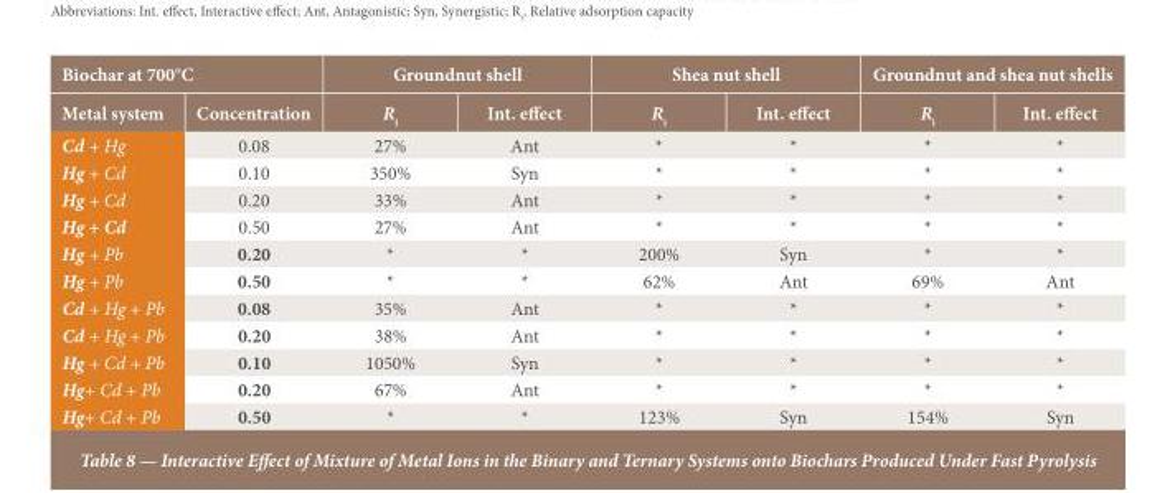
<table><thead><tr><td colspan="2">Biochar at 700°C</td><td colspan="2">Groundnut shell</td><td colspan="2">Shea nut shell</td><td colspan="2">Groundnut and shea nut shells</td></tr><tr><td>Metal system</td><td>Concentration</td><td>R<sub>i</sub></td><td>Int. effect</td><td>R<sub>i</sub></td><td>Int. effect</td><td>R<sub>i</sub></td><td>Int. effect</td></tr></thead><tbody><tr><td>Cd + Hg</td><td>0.08</td><td>27%</td><td>Ant</td><td>*</td><td>*</td><td>*</td><td>*</td></tr><tr><td>Hg + Cd</td><td>0.10</td><td>350%</td><td>Syn</td><td>*</td><td>*</td><td>*</td><td>*</td></tr><tr><td>Hg + Cd</td><td>0.20</td><td>33%</td><td>Ant</td><td>*</td><td>*</td><td>*</td><td>*</td></tr><tr><td>Hg + Cd</td><td>0.50</td><td>27%</td><td>Ant</td><td>*</td><td>*</td><td>*</td><td>*</td></tr><tr><td>Hg + Pb</td><td>0.20</td><td>*</td><td>*</td><td>200%</td><td>Syn</td><td>*</td><td>*</td></tr><tr><td>Hg + Pb</td><td>0.50</td><td>*</td><td>*</td><td>62%</td><td>Ant</td><td>69%</td><td>Ant</td></tr><tr><td>Cd + Hg + Pb</td><td>0.08</td><td>35%</td><td>Ant</td><td>*</td><td>*</td><td>*</td><td>*</td></tr><tr><td>Cd + Hg + Pb</td><td>0.20</td><td>38%</td><td>Ant</td><td>*</td><td>*</td><td>*</td><td>*</td></tr><tr><td>Hg + Cd + Pb</td><td>0.10</td><td>1050%</td><td>Syn</td><td>*</td><td>*</td><td>*</td><td>*</td></tr><tr><td>Hg+ Cd + Pb</td><td>0.20</td><td>67%</td><td>Ant</td><td>*</td><td>*</td><td>*</td><td>*</td></tr><tr><td>Hg+ Cd + Pb</td><td>0.50</td><td>*</td><td>*</td><td>123%</td><td>Syn</td><td>154%</td><td>Syn</td></tr></tbody></table>